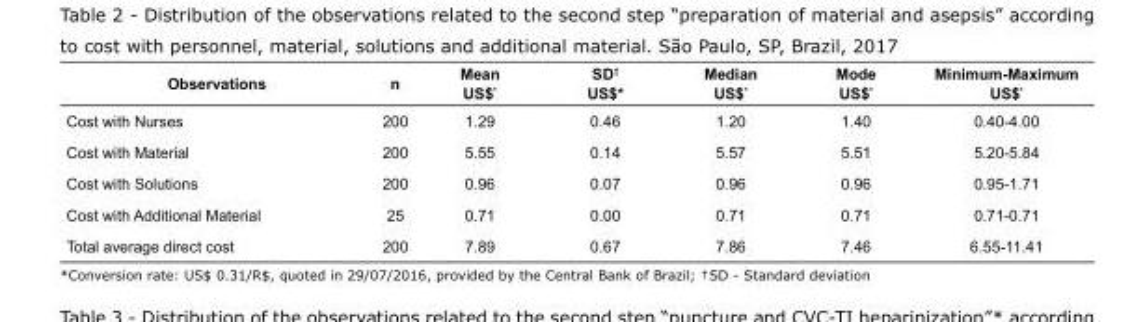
<table><tbody><tr><td>Observations</td><td>n</td><td>Mean US$*</td><td>SD<sup>†</sup> US$*</td><td>Median US$*</td><td>Mode US$*</td><td>Minimum-Maximum US$*</td></tr><tr><td>Cost with Nurses</td><td>200</td><td>1.29</td><td>0.46</td><td>1.20</td><td>1.40</td><td>0.40-4.00</td></tr><tr><td>Cost with Material</td><td>200</td><td>5.55</td><td>0.14</td><td>5.57</td><td>5.51</td><td>5.20-5.84</td></tr><tr><td>Cost with Solutions</td><td>200</td><td>0.96</td><td>0.07</td><td>0.96</td><td>0.96</td><td>0.95-1.71</td></tr><tr><td>Cost with Additional Material</td><td>25</td><td>0.71</td><td>0.00</td><td>0.71</td><td>0.71</td><td>0.71-0.71</td></tr><tr><td>Total average direct cost</td><td>200</td><td>7.89</td><td>0.67</td><td>7.86</td><td>7.46</td><td>6.55-11.41</td></tr></tbody></table>